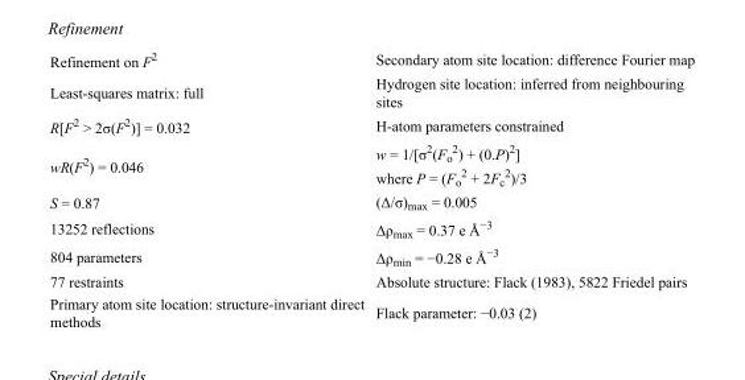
<table><tbody><tr><td>Refinement on F<sup>2</sup></td><td>Secondary atom site location: difference Fourier map</td></tr><tr><td>Least-squares matrix: full</td><td>Hydrogen site location: inferred from neighbouring sites</td></tr><tr><td>R[F<sup>2</sup> &gt; 2σ(F<sup>2</sup>)] = 0.032</td><td>H-atom parameters constrained</td></tr><tr><td>wR(F<sup>2</sup>) = 0.046</td><td>w = 1/[σ<sup>2</sup>(F<sub>o</sub> <sup>2</sup>) + (0.P)<sup>2</sup>] where P = (F<sub>o</sub> <sup>2</sup> + 2F<sub>c</sub> <sup>2</sup>)/3</td></tr><tr><td>S = 0.87</td><td>(Δ/σ)<sub>max</sub> = 0.005</td></tr><tr><td>13252 reflections</td><td>Δρ<sub>max</sub> = 0.37 e Å<sup>−3</sup></td></tr><tr><td>804 parameters</td><td>Δρ<sub>min</sub> = −0.28 e Å<sup>−3</sup></td></tr><tr><td>77 restraints</td><td>Absolute structure: Flack (1983), 5822 Friedel pairs</td></tr><tr><td>Primary atom site location: structure-invariant direct methods</td><td>Flack parameter: −0.03 (2)</td></tr></tbody></table>